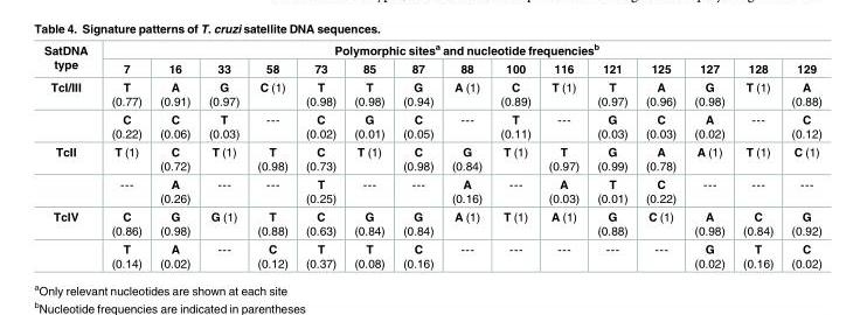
<table><thead><tr><td rowspan="2">SatDNA type</td><td colspan="15">Polymorphic sites<sup>a</sup> and nucleotide frequencies<sup>b</sup></td></tr><tr><td>7</td><td>16</td><td>33</td><td>58</td><td>73</td><td>85</td><td>87</td><td>88</td><td>100</td><td>116</td><td>121</td><td>125</td><td>127</td><td>128</td><td>129</td></tr></thead><tbody><tr><td rowspan="2">TcI/III</td><td>T (0.77)</td><td>A (0.91)</td><td>G (0.97)</td><td>C (1)</td><td>T (0.98)</td><td>T (0.98)</td><td>G (0.94)</td><td>A (1)</td><td>C (0.89)</td><td>T (1)</td><td>T (0.97)</td><td>A (0.96)</td><td>G (0.98)</td><td>T (1)</td><td>A (0.88)</td></tr><tr><td>C (0.22)</td><td>C (0.06)</td><td>T (0.03)</td><td>---</td><td>C (0.02)</td><td>G (0.01)</td><td>C (0.05)</td><td>---</td><td>T (0.11)</td><td>---</td><td>G (0.03)</td><td>C (0.03)</td><td>A (0.02)</td><td>---</td><td>C (0.12)</td></tr><tr><td rowspan="2">TcII</td><td>T (1)</td><td>C (0.72)</td><td>T (1)</td><td>T (0.98)</td><td>C (0.73)</td><td>T (1)</td><td>C (0.98)</td><td>G (0.84)</td><td>T (1)</td><td>T (0.97)</td><td>G (0.99)</td><td>A (0.78)</td><td>A (1)</td><td>T (1)</td><td>C (1)</td></tr><tr><td>---</td><td>A (0.26)</td><td>---</td><td>---</td><td>T (0.25)</td><td>---</td><td>---</td><td>A (0.16)</td><td>---</td><td>A (0.03)</td><td>T (0.01)</td><td>C (0.22)</td><td>---</td><td>---</td><td>---</td></tr><tr><td rowspan="2">TcIV</td><td>C (0.86)</td><td>G (0.98)</td><td>G (1)</td><td>T (0.88)</td><td>C (0.63)</td><td>G (0.84)</td><td>G (0.84)</td><td>A (1)</td><td>T (1)</td><td>A (1)</td><td>G (0.88)</td><td>C (1)</td><td>A (0.98)</td><td>C (0.84)</td><td>G (0.92)</td></tr><tr><td>T (0.14)</td><td>A (0.02)</td><td>---</td><td>C (0.12)</td><td>T (0.37)</td><td>T (0.08)</td><td>C (0.16)</td><td>---</td><td>---</td><td>---</td><td>---</td><td>---</td><td>G (0.02)</td><td>T (0.16)</td><td>C (0.02)</td></tr></tbody></table>